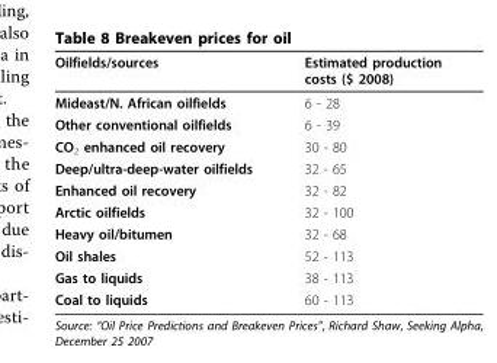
<table><thead><tr><td>Oilfields/sources</td><td>Estimated production costs ($ 2008)</td></tr></thead><tbody><tr><td>Mideast/N. African oilfields</td><td>6 - 28</td></tr><tr><td>Other conventional oilfields</td><td>6 - 39</td></tr><tr><td>CO<sub>2</sub> enhanced oil recovery</td><td>30 - 80</td></tr><tr><td>Deep/ultra-deep-water oilfields</td><td>32 - 65</td></tr><tr><td>Enhanced oil recovery</td><td>32 - 82</td></tr><tr><td>Arctic oilfields</td><td>32 - 100</td></tr><tr><td>Heavy oil/bitumen</td><td>32 - 68</td></tr><tr><td>Oil shales</td><td>52 - 113</td></tr><tr><td>Gas to liquids</td><td>38 - 113</td></tr><tr><td>Coal to liquids</td><td>60 - 113</td></tr></tbody></table>